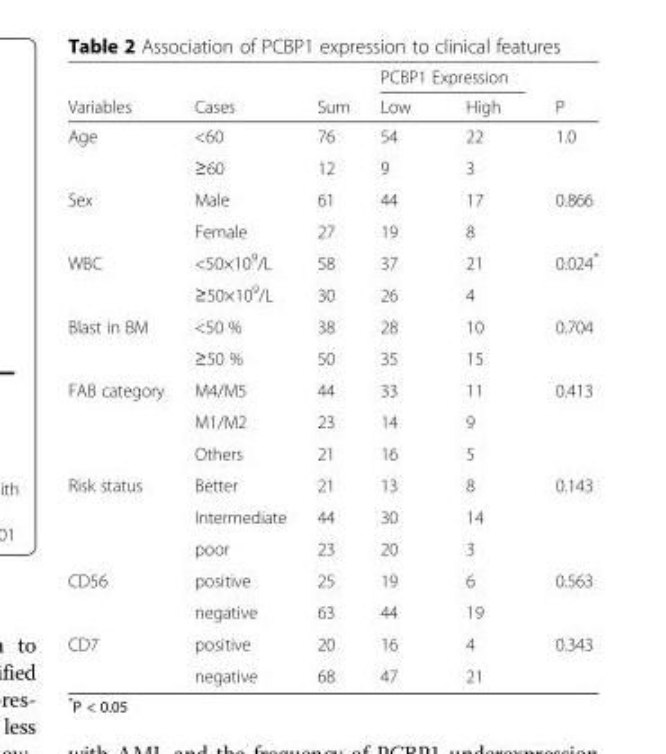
<table><thead><tr><td rowspan="2">Variables</td><td rowspan="2">Cases</td><td rowspan="2">Sum</td><td colspan="2">PCBP1 Expression</td><td rowspan="2">P</td></tr><tr><td>Low</td><td>High</td></tr></thead><tbody><tr><td rowspan="2">Age</td><td>&lt;60</td><td>76</td><td>54</td><td>22</td><td rowspan="2">1.0</td></tr><tr><td>≥60</td><td>12</td><td>9</td><td>3</td></tr><tr><td rowspan="2">Sex</td><td>Male</td><td>61</td><td>44</td><td>17</td><td rowspan="2">0.866</td></tr><tr><td>Female</td><td>27</td><td>19</td><td>8</td></tr><tr><td rowspan="2">WBC</td><td>&lt;50×109/L</td><td>58</td><td>37</td><td>21</td><td rowspan="2">0.024*</td></tr><tr><td>≥50×109/L</td><td>30</td><td>26</td><td>4</td></tr><tr><td rowspan="2">Blast in BM</td><td>&lt;50 %</td><td>38</td><td>28</td><td>10</td><td rowspan="2">0.704</td></tr><tr><td>≥50 %</td><td>50</td><td>35</td><td>15</td></tr><tr><td rowspan="3">FAB category</td><td>M4/M5</td><td>44</td><td>33</td><td>11</td><td rowspan="3">0.413</td></tr><tr><td>M1/M2</td><td>23</td><td>14</td><td>9</td></tr><tr><td>Others</td><td>21</td><td>16</td><td>5</td></tr><tr><td rowspan="3">Risk status</td><td>Better</td><td>21</td><td>13</td><td>8</td><td rowspan="3">0.143</td></tr><tr><td>Intermediate</td><td>44</td><td>30</td><td>14</td></tr><tr><td>poor</td><td>23</td><td>20</td><td>3</td></tr><tr><td rowspan="2">CD56</td><td>positive</td><td>25</td><td>19</td><td>6</td><td rowspan="2">0.563</td></tr><tr><td>negative</td><td>63</td><td>44</td><td>19</td></tr><tr><td rowspan="2">CD7</td><td>positive</td><td>20</td><td>16</td><td>4</td><td rowspan="2">0.343</td></tr><tr><td>negative</td><td>68</td><td>47</td><td>21</td></tr></tbody></table>